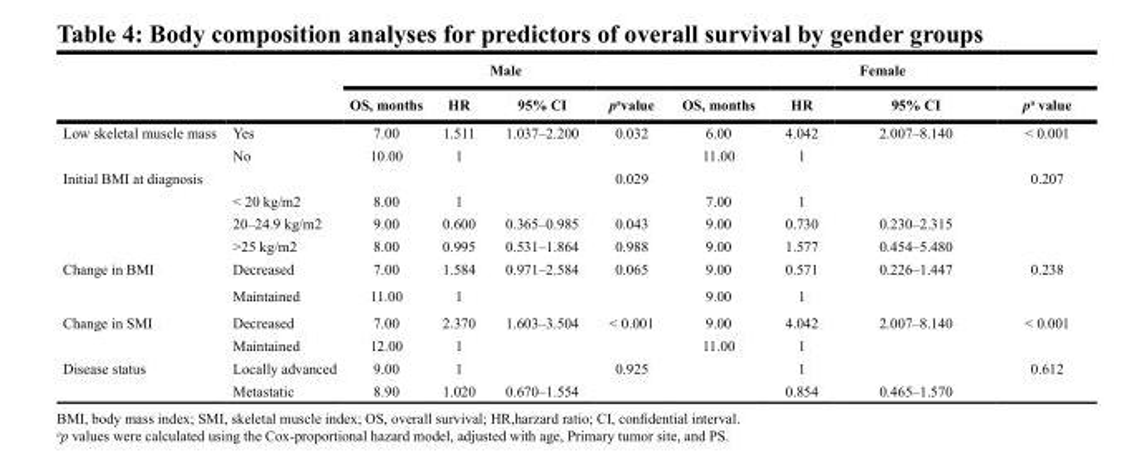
<table><thead><tr><td rowspan="2"></td><td rowspan="2"></td><td colspan="4">Male</td><td colspan="4">Female</td></tr><tr><td>OS, months</td><td>HR</td><td>95% CI</td><td>p<sup>a</sup>value</td><td>OS, months</td><td>HR</td><td>95% CI</td><td>p<sup>a</sup> value</td></tr></thead><tbody><tr><td rowspan="2">Low skeletal muscle mass</td><td>Yes</td><td>7.00</td><td>1.511</td><td>1.037–2.200</td><td>0.032</td><td>6.00</td><td>4.042</td><td>2.007–8.140</td><td>&lt; 0.001</td></tr><tr><td>No</td><td>10.00</td><td>1</td><td></td><td></td><td>11.00</td><td>1</td><td></td><td></td></tr><tr><td rowspan="4">Initial BMI at diagnosis</td><td></td><td></td><td></td><td></td><td>0.029</td><td></td><td></td><td></td><td>0.207</td></tr><tr><td>&lt; 20 kg/m2</td><td>8.00</td><td>1</td><td></td><td></td><td>7.00</td><td>1</td><td></td><td></td></tr><tr><td>20–24.9 kg/m2</td><td>9.00</td><td>0.600</td><td>0.365–0.985</td><td>0.043</td><td>9.00</td><td>0.730</td><td>0.230–2.315</td><td></td></tr><tr><td>&gt;25 kg/m2</td><td>8.00</td><td>0.995</td><td>0.531–1.864</td><td>0.988</td><td>9.00</td><td>1.577</td><td>0.454–5.480</td><td></td></tr><tr><td rowspan="2">Change in BMI</td><td>Decreased</td><td>7.00</td><td>1.584</td><td>0.971–2.584</td><td>0.065</td><td>9.00</td><td>0.571</td><td>0.226–1.447</td><td>0.238</td></tr><tr><td>Maintained</td><td>11.00</td><td>1</td><td></td><td></td><td>9.00</td><td>1</td><td></td><td></td></tr><tr><td rowspan="2">Change in SMI</td><td>Decreased</td><td>7.00</td><td>2.370</td><td>1.603–3.504</td><td>&lt; 0.001</td><td>9.00</td><td>4.042</td><td>2.007–8.140</td><td>&lt; 0.001</td></tr><tr><td>Maintained</td><td>12.00</td><td>1</td><td></td><td></td><td>11.00</td><td>1</td><td></td><td></td></tr><tr><td rowspan="2">Disease status</td><td>Locally advanced</td><td>9.00</td><td>1</td><td></td><td>0.925</td><td></td><td>1</td><td></td><td>0.612</td></tr><tr><td>Metastatic</td><td>8.90</td><td>1.020</td><td>0.670–1.554</td><td></td><td></td><td>0.854</td><td>0.465–1.570</td><td></td></tr></tbody></table>